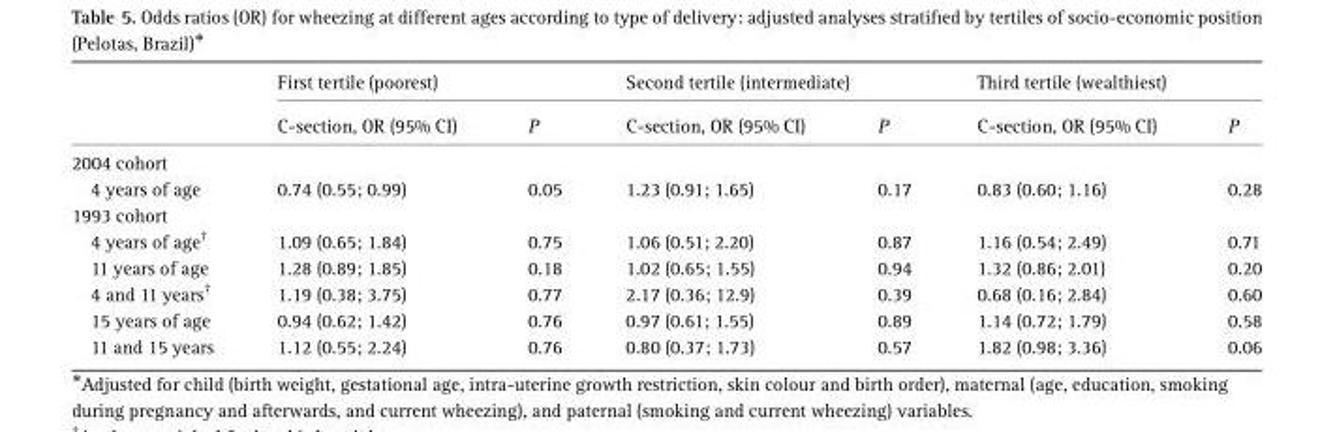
<table><thead><tr><td rowspan="2"></td><td colspan="2">First tertile (poorest)</td><td colspan="2">Second tertile (intermediate)</td><td colspan="2">Third tertile (wealthiest)</td></tr><tr><td>C-section, OR (95% CI)</td><td>P</td><td>C-section, OR (95% CI)</td><td>P</td><td>C-section, OR (95% CI)</td><td>P</td></tr></thead><tbody><tr><td colspan="7">2004 cohort</td></tr><tr><td>4 years of age</td><td>0.74 (0.55; 0.99)</td><td>0.05</td><td>1.23 (0.91; 1.65)</td><td>0.17</td><td>0.83 (0.60; 1.16)</td><td>0.28</td></tr><tr><td colspan="7">1993 cohort</td></tr><tr><td>4 years of age†</td><td>1.09 (0.65; 1.84)</td><td>0.75</td><td>1.06 (0.51; 2.20)</td><td>0.87</td><td>1.16 (0.54; 2.49)</td><td>0.71</td></tr><tr><td>11 years of age</td><td>1.28 (0.89; 1.85)</td><td>0.18</td><td>1.02 (0.65; 1.55)</td><td>0.94</td><td>1.32 (0.86; 2.01)</td><td>0.20</td></tr><tr><td>4 and 11 years†</td><td>1.19 (0.38; 3.75)</td><td>0.77</td><td>2.17 (0.36; 12.9)</td><td>0.39</td><td>0.68 (0.16; 2.84)</td><td>0.60</td></tr><tr><td>15 years of age</td><td>0.94 (0.62; 1.42)</td><td>0.76</td><td>0.97 (0.61; 1.55)</td><td>0.89</td><td>1.14 (0.72; 1.79)</td><td>0.58</td></tr><tr><td>11 and 15 years</td><td>1.12 (0.55; 2.24)</td><td>0.76</td><td>0.80 (0.37; 1.73)</td><td>0.57</td><td>1.82 (0.98; 3.36)</td><td>0.06</td></tr></tbody></table>